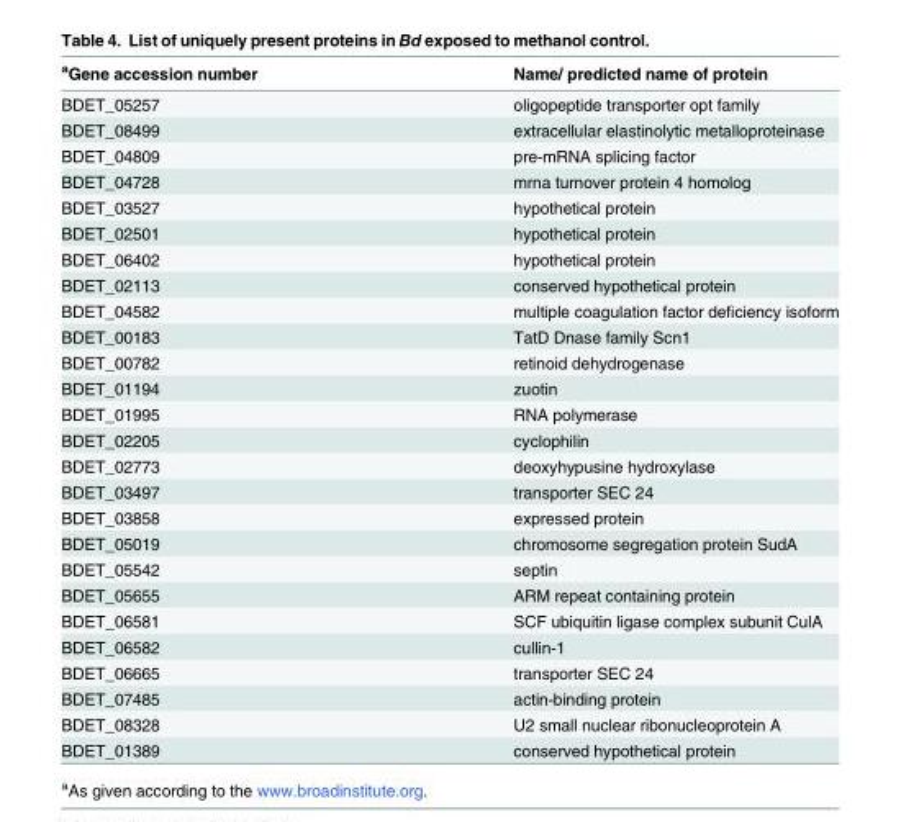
<table><thead><tr><td><sup>a</sup>Gene accession number</td><td>Name/ predicted name of protein</td></tr></thead><tbody><tr><td>BDET_05257</td><td>oligopeptide transporter opt family</td></tr><tr><td>BDET_08499</td><td>extracellular elastinolytic metalloproteinase</td></tr><tr><td>BDET_04809</td><td>pre-mRNA splicing factor</td></tr><tr><td>BDET_04728</td><td>mrna turnover protein 4 homolog</td></tr><tr><td>BDET_03527</td><td>hypothetical protein</td></tr><tr><td>BDET_02501</td><td>hypothetical protein</td></tr><tr><td>BDET_06402</td><td>hypothetical protein</td></tr><tr><td>BDET_02113</td><td>conserved hypothetical protein</td></tr><tr><td>BDET_04582</td><td>multiple coagulation factor deficiency isoform</td></tr><tr><td>BDET_00183</td><td>TatD Dnase family Scn1</td></tr><tr><td>BDET_00782</td><td>retinoid dehydrogenase</td></tr><tr><td>BDET_01194</td><td>zuotin</td></tr><tr><td>BDET_01995</td><td>RNA polymerase</td></tr><tr><td>BDET_02205</td><td>cyclophilin</td></tr><tr><td>BDET_02773</td><td>deoxyhypusine hydroxylase</td></tr><tr><td>BDET_03497</td><td>transporter SEC 24</td></tr><tr><td>BDET_03858</td><td>expressed protein</td></tr><tr><td>BDET_05019</td><td>chromosome segregation protein SudA</td></tr><tr><td>BDET_05542</td><td>septin</td></tr><tr><td>BDET_05655</td><td>ARM repeat containing protein</td></tr><tr><td>BDET_06581</td><td>SCF ubiquitin ligase complex subunit CulA</td></tr><tr><td>BDET_06582</td><td>cullin-1</td></tr><tr><td>BDET_06665</td><td>transporter SEC 24</td></tr><tr><td>BDET_07485</td><td>actin-binding protein</td></tr><tr><td>BDET_08328</td><td>U2 small nuclear ribonucleoprotein A</td></tr><tr><td>BDET_01389</td><td>conserved hypothetical protein</td></tr></tbody></table>